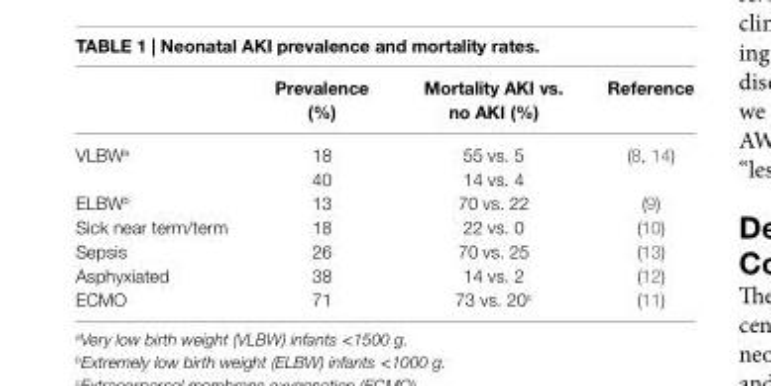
<table><thead><tr><td></td><td>Prevalence (%)</td><td>Mortality aKi vs. no aKi (%)</td><td>reference</td></tr></thead><tbody><tr><td rowspan="2">VLBW<sup>a</sup></td><td>18</td><td>55 vs. 5</td><td rowspan="2">(8, 14)</td></tr><tr><td>40</td><td>14 vs. 4</td></tr><tr><td>ELBW<sup>b</sup></td><td>13</td><td>70 vs. 22</td><td>(9)</td></tr><tr><td>Sick near term/term</td><td>18</td><td>22 vs. 0</td><td>(10)</td></tr><tr><td>Sepsis</td><td>26</td><td>70 vs. 25</td><td>(13)</td></tr><tr><td>Asphyxiated</td><td>38</td><td>14 vs. 2</td><td>(12)</td></tr><tr><td>ECMO</td><td>71</td><td>73 vs. 20<sup>c</sup></td><td>(11)</td></tr></tbody></table>